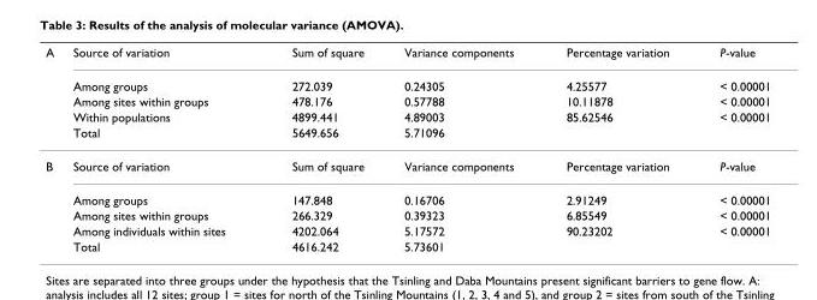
<table><thead><tr><td rowspan="5">A</td><td rowspan="5">Source of variation Among groups Among sites within groups Within populations Total</td><td rowspan="5">Sum of square 272.039 478.176 4899.441 5649.656</td><td rowspan="5">Variance components 0.24305 0.57788 4.89003 5.71096</td><td rowspan="5">Percentage variation 4.25577 10.11878 85.62546</td><td rowspan="5">P-value &lt; 0.00001 &lt; 0.00001 &lt; 0.00001</td></tr><tr></tr><tr></tr><tr></tr><tr></tr></thead><tbody><tr><td rowspan="5">B</td><td>Source of variation</td><td>Sum of square</td><td>Variance components</td><td>Percentage variation</td><td>P-value</td></tr><tr><td>Among groups</td><td>147.848</td><td>0.16706</td><td>2.91249</td><td>&lt; 0.00001</td></tr><tr><td>Among sites within groups</td><td>266.329</td><td>0.39323</td><td>6.85549</td><td>&lt; 0.00001</td></tr><tr><td>Among individuals within sites</td><td>4202.064</td><td>5.17572</td><td>90.23202</td><td>&lt; 0.00001</td></tr><tr><td>Total</td><td>4616.242</td><td>5.73601</td><td></td><td></td></tr></tbody></table>